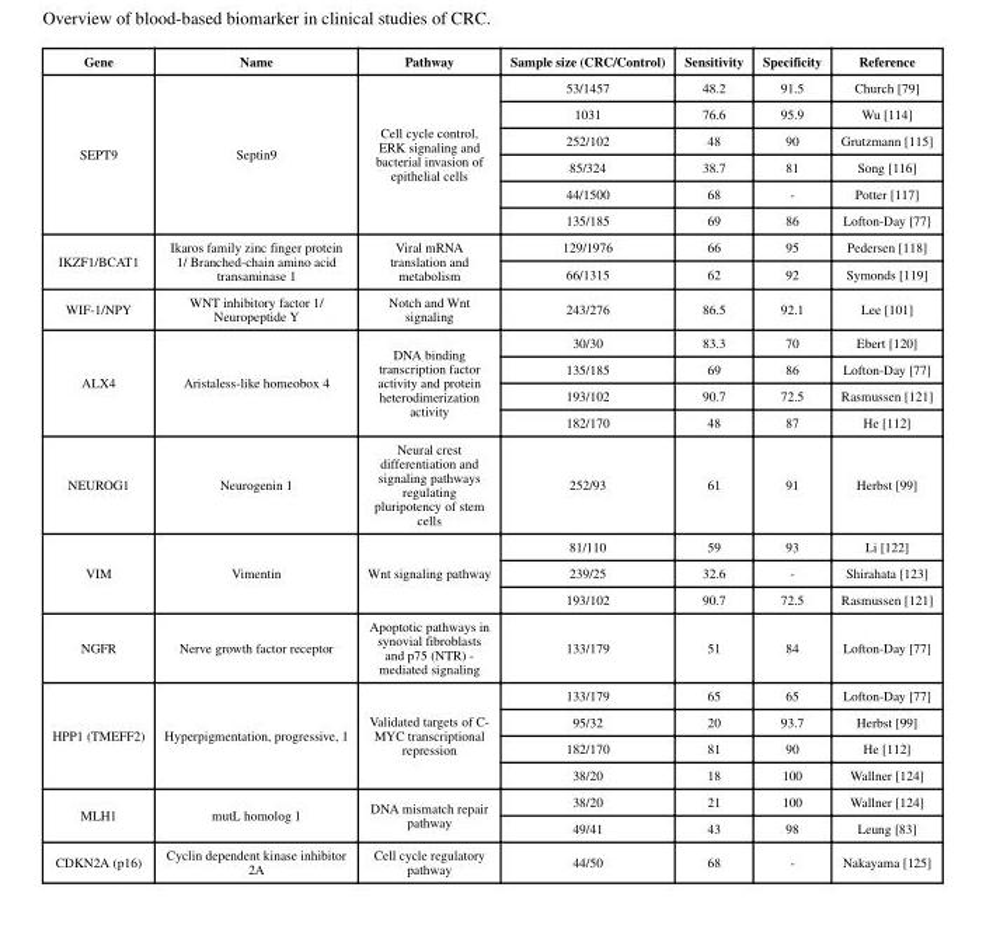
<table><thead><tr><td>Gene</td><td>Name</td><td>Pathway</td><td>Sample size (CRC/Control)</td><td>Sensitivity</td><td>Specificity</td><td>Reference</td></tr></thead><tbody><tr><td rowspan="6">SEPT9</td><td rowspan="6">Septin9</td><td rowspan="6">Cell cycle control, ERK signaling and bacterial invasion of epithelial cells</td><td>53/1457</td><td>48.2</td><td>91.5</td><td>Church [79]</td></tr><tr><td>1031</td><td>76.6</td><td>95.9</td><td>Wu [114]</td></tr><tr><td>252/102</td><td>48</td><td>90</td><td>Grutzmann [115]</td></tr><tr><td>85/324</td><td>38.7</td><td>81</td><td>Song [116]</td></tr><tr><td>44/1500</td><td>68</td><td>-</td><td>Potter [117]</td></tr><tr><td>135/185</td><td>69</td><td>86</td><td>Lofton-Day [77]</td></tr><tr><td rowspan="2">IKZF1/BCAT1</td><td rowspan="2">Ikaros family zinc finger protein 1/ Branched-chain amino acid transaminase 1</td><td rowspan="2">Viral mRNA translation and metabolism</td><td>129/1976</td><td>66</td><td>95</td><td>Pedersen [118]</td></tr><tr><td>66/1315</td><td>62</td><td>92</td><td>Symonds [119]</td></tr><tr><td>WIF-1/NPY</td><td>WNT inhibitory factor 1/ Neuropeptide Y</td><td>Notch and Wnt signaling</td><td>243/276</td><td>86.5</td><td>92.1</td><td>Lee [101]</td></tr><tr><td rowspan="4">ALX4</td><td rowspan="4">Aristaless-like homeobox 4</td><td rowspan="4">DNA binding transcription factor activity and protein heterodimerization activity</td><td>30/30</td><td>83.3</td><td>70</td><td>Ebert [120]</td></tr><tr><td>135/185</td><td>69</td><td>86</td><td>Lofton-Day [77]</td></tr><tr><td>193/102</td><td>90.7</td><td>72.5</td><td>Rasmussen [121]</td></tr><tr><td>182/170</td><td>48</td><td>87</td><td>He [112]</td></tr><tr><td>NEUROG1</td><td>Neurogenin 1</td><td>Neural crest differentiation and signaling pathways regulating pluripotency of stem cells</td><td>252/93</td><td>61</td><td>91</td><td>Herbst [99]</td></tr><tr><td rowspan="3">VIM</td><td rowspan="3">Vimentin</td><td rowspan="3">Wnt signaling pathway</td><td>81/110</td><td>59</td><td>93</td><td>Li [122]</td></tr><tr><td>239/25</td><td>32.6</td><td>-</td><td>Shirahata [123]</td></tr><tr><td>193/102</td><td>90.7</td><td>72.5</td><td>Rasmussen [121]</td></tr><tr><td>NGFR</td><td>Nerve growth factor receptor</td><td>Apoptotic pathways in synovial fibroblasts and p75 (NTR) - mediated signaling</td><td>133/179</td><td>51</td><td>84</td><td>Lofton-Day [77]</td></tr><tr><td rowspan="4">HPP1 (TMEFF2)</td><td rowspan="4">Hyperpigmentation, progressive, 1</td><td rowspan="4">Validated targets of C- MYC transcriptional repression</td><td>133/179</td><td>65</td><td>65</td><td>Lofton-Day [77]</td></tr><tr><td>95/32</td><td>20</td><td>93.7</td><td>Herbst [99]</td></tr><tr><td>182/170</td><td>81</td><td>90</td><td>He [112]</td></tr><tr><td>38/20</td><td>18</td><td>100</td><td>Wallner [124]</td></tr><tr><td rowspan="2">MLH1</td><td rowspan="2">mutL homolog 1</td><td rowspan="2">DNA mismatch repair pathway</td><td>38/20</td><td>21</td><td>100</td><td>Wallner [124]</td></tr><tr><td>49/41</td><td>43</td><td>98</td><td>Leung [83]</td></tr><tr><td>CDKN2A (p16)</td><td>Cyclin dependent kinase inhibitor 2A</td><td>Cell cycle regulatory pathway</td><td>44/50</td><td>68</td><td>-</td><td>Nakayama [125]</td></tr></tbody></table>